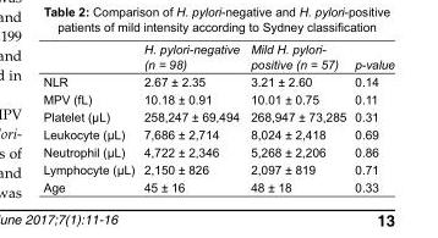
<table><thead><tr><td></td><td>H. pylori-negative (n = 98)</td><td>Mild H. pylori- positive (n = 57)</td><td>p-value</td></tr></thead><tbody><tr><td>NLR</td><td>2.67 ± 2.35</td><td>3.21 ± 2.60</td><td>0.14</td></tr><tr><td>MPV (fL)</td><td>10.18 ± 0.91</td><td>10.01 ± 0.75</td><td>0.11</td></tr><tr><td>Platelet (µL)</td><td>258,247 ± 69,494</td><td>268,947 ± 73,285</td><td>0.31</td></tr><tr><td>Leukocyte (µL)</td><td>7,686 ± 2,714</td><td>8,024 ± 2,418</td><td>0.69</td></tr><tr><td>Neutrophil (µL)</td><td>4,722 ± 2,346</td><td>5,268 ± 2,206</td><td>0.86</td></tr><tr><td>Lymphocyte (µL)</td><td>2,150 ± 826</td><td>2,097 ± 819</td><td>0.71</td></tr><tr><td>Age</td><td>45 ± 16</td><td>48 ± 18</td><td>0.33</td></tr></tbody></table>